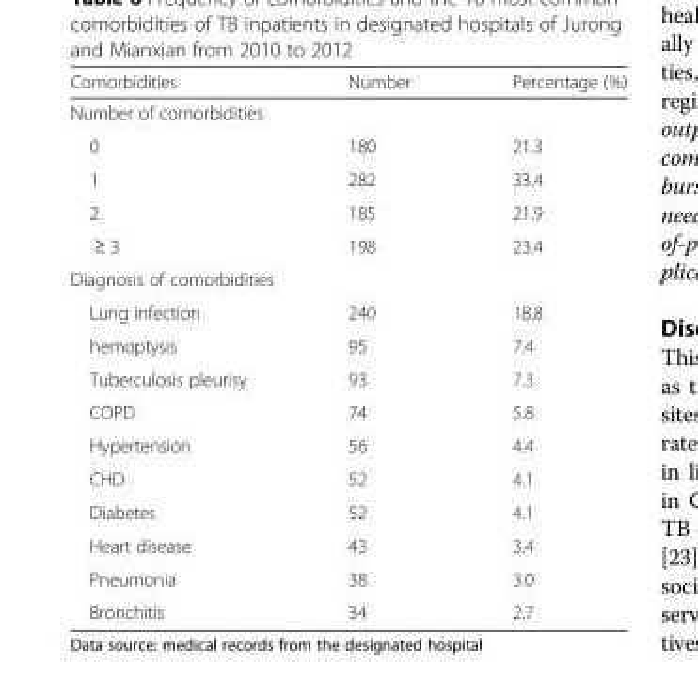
<table><thead><tr><td>Comorbidities</td><td>Number</td><td>Percentage (%)</td></tr></thead><tbody><tr><td colspan="3">Number of comorbidities</td></tr><tr><td>0</td><td>180</td><td>21.3</td></tr><tr><td>1</td><td>282</td><td>33.4</td></tr><tr><td>2</td><td>185</td><td>21.9</td></tr><tr><td>≥ 3</td><td>198</td><td>23.4</td></tr><tr><td colspan="3">Diagnosis of comorbidities</td></tr><tr><td>Lung infection</td><td>240</td><td>18.8</td></tr><tr><td>hemoptysis</td><td>95</td><td>7.4</td></tr><tr><td>Tuberculosis pleurisy</td><td>93</td><td>7.3</td></tr><tr><td>COPD</td><td>74</td><td>5.8</td></tr><tr><td>Hypertension</td><td>56</td><td>4.4</td></tr><tr><td>CHD</td><td>52</td><td>4.1</td></tr><tr><td>Diabetes</td><td>52</td><td>4.1</td></tr><tr><td>Heart disease</td><td>43</td><td>3.4</td></tr><tr><td>Pneumonia</td><td>38</td><td>3.0</td></tr><tr><td>Bronchitis</td><td>34</td><td>2.7</td></tr></tbody></table>